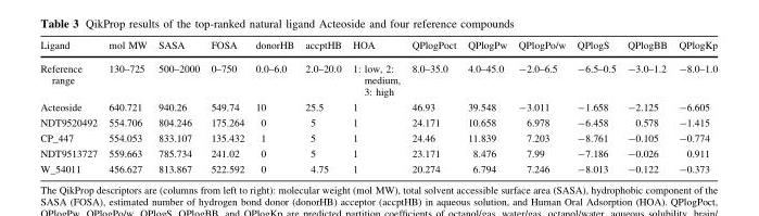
<table><thead><tr><td>Ligand</td><td>mol MW</td><td>SASA</td><td>FOSA</td><td>donorHB</td><td>accptHB</td><td>HOA</td><td>QPlogPoct</td><td>QPlogPw</td><td>QPlogPo/w</td><td>QPlogS</td><td>QPlogBB</td><td>QPlogKp</td></tr></thead><tbody><tr><td>Reference range</td><td>130–725</td><td>500–2000</td><td>0–750</td><td>0.0–6.0</td><td>2.0–20.0</td><td>1: low, 2: medium, 3: high</td><td>8.0–35.0</td><td>4.0–45.0</td><td>-2.0–6.5</td><td>-6.5–0.5</td><td>-3.0–1.2</td><td>-8.0–1.0</td></tr><tr><td>Acteoside</td><td>640.721</td><td>940.26</td><td>549.74</td><td>10</td><td>25.5</td><td>1</td><td>46.93</td><td>39.548</td><td>-3.011</td><td>-1.658</td><td>-2.125</td><td>-6.605</td></tr><tr><td>NDT9520492</td><td>554.706</td><td>804.246</td><td>175.264</td><td>0</td><td>5</td><td>1</td><td>24.171</td><td>10.658</td><td>6.978</td><td>-6.458</td><td>0.578</td><td>-1.415</td></tr><tr><td>CP_447</td><td>554.053</td><td>833.107</td><td>135.432</td><td>1</td><td>5</td><td>1</td><td>24.46</td><td>11.839</td><td>7.203</td><td>-8.761</td><td>-0.105</td><td>-0.774</td></tr><tr><td>NDT9513727</td><td>559.663</td><td>785.734</td><td>241.02</td><td>0</td><td>5</td><td>1</td><td>23.171</td><td>8.476</td><td>7.99</td><td>-7.186</td><td>-0.026</td><td>0.911</td></tr><tr><td>W_54011</td><td>456.627</td><td>813.867</td><td>522.592</td><td>0</td><td>4.75</td><td>1</td><td>20.274</td><td>6.794</td><td>7.246</td><td>-8.013</td><td>-0.122</td><td>-0.373</td></tr></tbody></table>